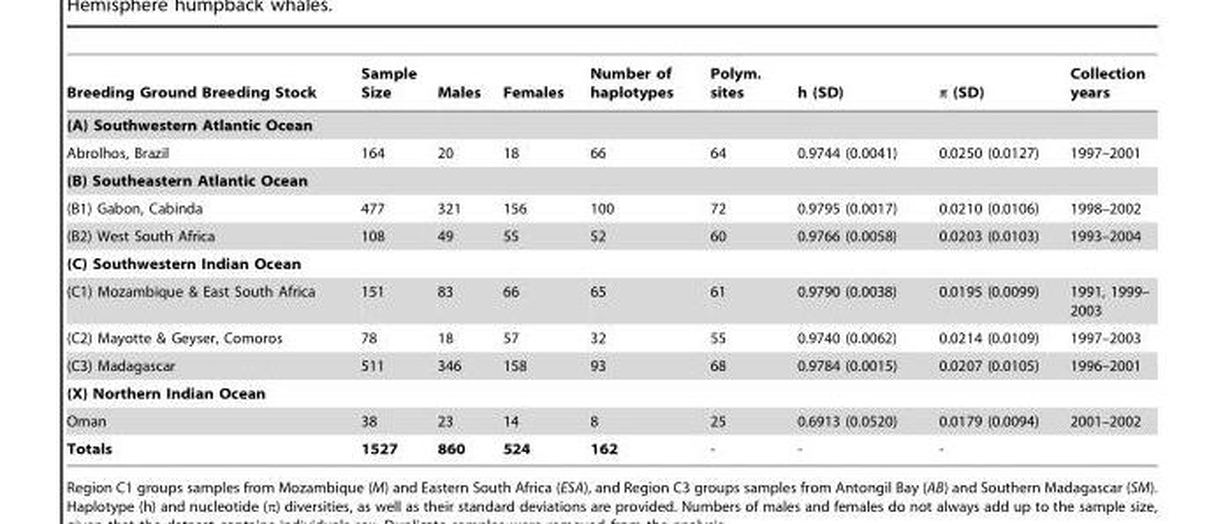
<table><thead><tr><td>Breeding Ground Breeding Stock</td><td>Sample Size</td><td>Males</td><td>Females</td><td>Number of haplotypes</td><td>Polym. sites</td><td>h (SD)</td><td>π (SD)</td><td>Collection years</td></tr></thead><tbody><tr><td colspan="9">(A) Southwestern Atlantic Ocean</td></tr><tr><td>Abrolhos, Brazil</td><td>164</td><td>20</td><td>18</td><td>66</td><td>64</td><td>0.9744 (0.0041)</td><td>0.0250 (0.0127)</td><td>1997–2001</td></tr><tr><td colspan="9">(B) Southeastern Atlantic Ocean</td></tr><tr><td>(B1) Gabon, Cabinda</td><td>477</td><td>321</td><td>156</td><td>100</td><td>72</td><td>0.9795 (0.0017)</td><td>0.0210 (0.0106)</td><td>1998–2002</td></tr><tr><td>(B2) West South Africa</td><td>108</td><td>49</td><td>55</td><td>52</td><td>60</td><td>0.9766 (0.0058)</td><td>0.0203 (0.0103)</td><td>1993–2004</td></tr><tr><td colspan="9">(C) Southwestern Indian Ocean</td></tr><tr><td>(C1) Mozambique &amp; East South Africa</td><td>151</td><td>83</td><td>66</td><td>65</td><td>61</td><td>0.9790 (0.0038)</td><td>0.0195 (0.0099)</td><td>1991, 1999– 2003</td></tr><tr><td>(C2) Mayotte &amp; Geyser, Comoros</td><td>78</td><td>18</td><td>57</td><td>32</td><td>55</td><td>0.9740 (0.0062)</td><td>0.0214 (0.0109)</td><td>1997–2003</td></tr><tr><td>(C3) Madagascar</td><td>511</td><td>346</td><td>158</td><td>93</td><td>68</td><td>0.9784 (0.0015)</td><td>0.0207 (0.0105)</td><td>1996–2001</td></tr><tr><td colspan="9">(X) Northern Indian Ocean</td></tr><tr><td>Oman</td><td>38</td><td>23</td><td>14</td><td>8</td><td>25</td><td>0.6913 (0.0520)</td><td>0.0179 (0.0094)</td><td>2001–2002</td></tr><tr><td>Totals</td><td>1527</td><td>860</td><td>524</td><td>162</td><td>-</td><td>-</td><td>-</td><td></td></tr></tbody></table>